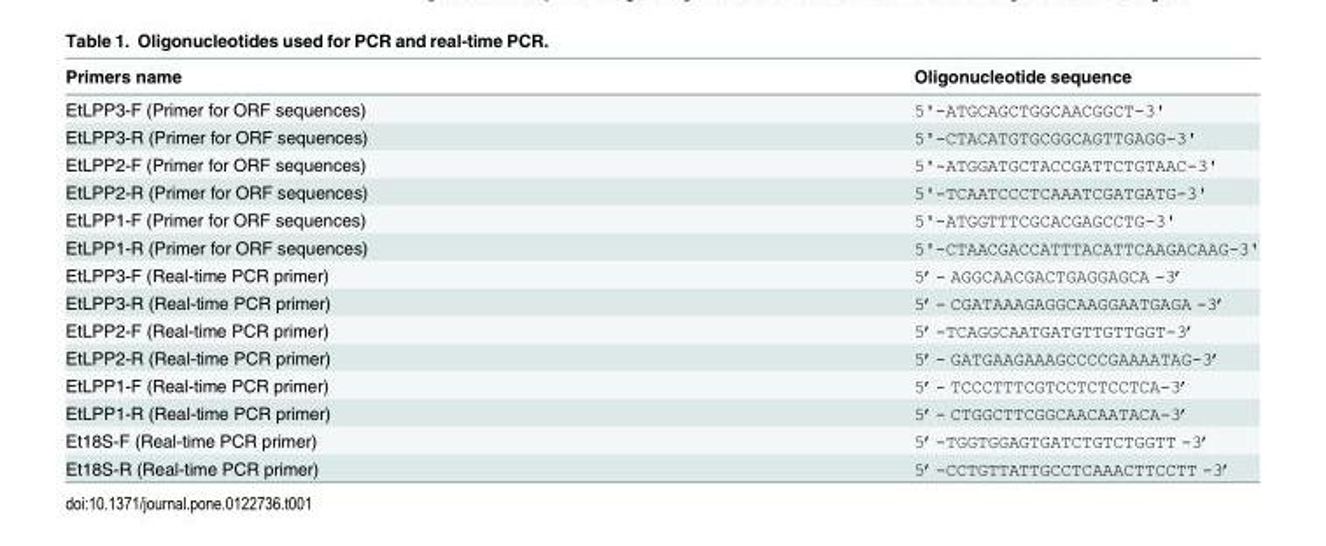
<table><thead><tr><td>Primers name</td><td>Oligonucleotide sequence</td></tr></thead><tbody><tr><td>EtLPP3-F (Primer for ORF sequences)</td><td>5&#x27;-ATGCAGCTGGCAACGGCT-3&#x27;</td></tr><tr><td>EtLPP3-R (Primer for ORF sequences)</td><td>5&#x27;-CTACATGTGCGGCAGTTGAGG-3&#x27;</td></tr><tr><td>EtLPP2-F (Primer for ORF sequences)</td><td>5&#x27;-ATGGATGCTACCGATTCTGTAAC-3&#x27;</td></tr><tr><td>EtLPP2-R (Primer for ORF sequences)</td><td>5&#x27;-TCAATCCCTCAAATCGATGATG-3&#x27;</td></tr><tr><td>EtLPP1-F (Primer for ORF sequences)</td><td>5&#x27;-ATGGTTTCGCACGAGCCTG-3&#x27;</td></tr><tr><td>EtLPP1-R (Primer for ORF sequences)</td><td>5&#x27;-CTAACGACCATTTACATTCAAGACAAG-3&#x27;</td></tr><tr><td>EtLPP3-F (Real-time PCR primer)</td><td>5’- AGGCAACGACTGAGGAGCA -3’</td></tr><tr><td>EtLPP3-R (Real-time PCR primer)</td><td>5’- CGATAAAGAGGCAAGGAATGAGA -3’</td></tr><tr><td>EtLPP2-F (Real-time PCR primer)</td><td>5’-TCAGGCAATGATGTTGTTGGT-3’</td></tr><tr><td>EtLPP2-R (Real-time PCR primer)</td><td>5’- GATGAAGAAAGCCCCGAAAATAG-3’</td></tr><tr><td>EtLPP1-F (Real-time PCR primer)</td><td>5’- TCCCTTTCGTCCTCTCCTCA-3’</td></tr><tr><td>EtLPP1-R (Real-time PCR primer)</td><td>5’- CTGGCTTCGGCAACAATACA-3’</td></tr><tr><td>Et18S-F (Real-time PCR primer)</td><td>5’-TGGTGGAGTGATCTGTCTGGTT -3’</td></tr><tr><td>Et18S-R (Real-time PCR primer)</td><td>5’-CCTGTTATTGCCTCAAACTTCCTT -3’</td></tr></tbody></table>